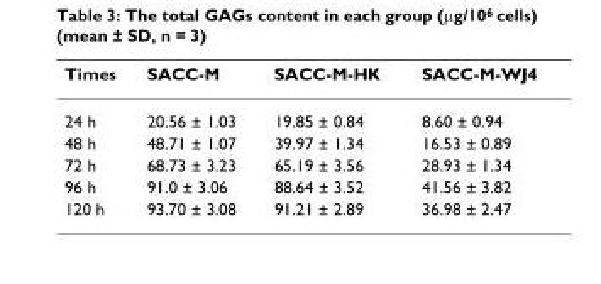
<table><thead><tr><td>Times</td><td>SACC-M</td><td>SACC-M-HK</td><td>SACC-M-WJ4</td></tr></thead><tbody><tr><td>24 h</td><td>20.56 ± 1.03</td><td>19.85 ± 0.84</td><td>8.60 ± 0.94</td></tr><tr><td>48 h</td><td>48.71 ± 1.07</td><td>39.97 ± 1.34</td><td>16.53 ± 0.89</td></tr><tr><td>72 h</td><td>68.73 ± 3.23</td><td>65.19 ± 3.56</td><td>28.93 ± 1.34</td></tr><tr><td>96 h</td><td>91.0 ± 3.06</td><td>88.64 ± 3.52</td><td>41.56 ± 3.82</td></tr><tr><td>120 h</td><td>93.70 ± 3.08</td><td>91.21 ± 2.89</td><td>36.98 ± 2.47</td></tr></tbody></table>